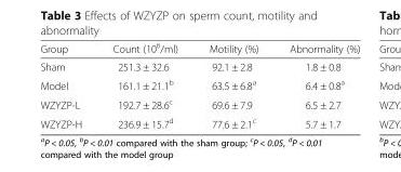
<table><thead><tr><td>Group</td><td>Count (10<sup>6</sup>/ml)</td><td>Motility (%)</td><td>Abnormality (%)</td></tr></thead><tbody><tr><td>Sham</td><td>251.3 ± 32.6</td><td>92.1 ± 2.8</td><td>1.8 ± 0.8</td></tr><tr><td>Model</td><td>161.1 ± 21.1<sup>b</sup></td><td>63.5 ± 6.8<sup>a</sup></td><td>6.4 ± 0.8<sup>a</sup></td></tr><tr><td>WZYZP-L</td><td>192.7 ± 28.6<sup>c</sup></td><td>69.6 ± 7.9</td><td>6.5 ± 2.7</td></tr><tr><td>WZYZP-H</td><td>236.9 ± 15.7<sup>d</sup></td><td>77.6 ± 2.1<sup>c</sup></td><td>5.7 ± 1.7</td></tr></tbody></table>